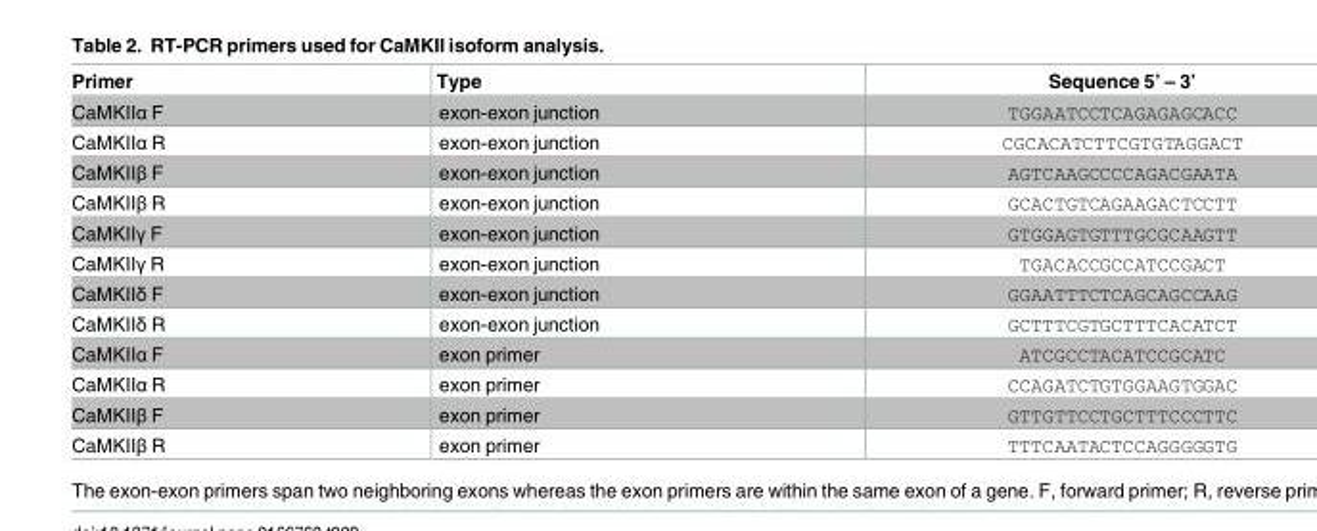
<table><thead><tr><td>Primer</td><td>Type</td><td>Sequence 5’ – 3’</td></tr></thead><tbody><tr><td>CaMKIIα F</td><td>exon-exon junction</td><td>TGGAATCCTCAGAGAGCACC</td></tr><tr><td>CaMKIIα R</td><td>exon-exon junction</td><td>CGCACATCTTCGTGTAGGACT</td></tr><tr><td>CaMKIIβ F</td><td>exon-exon junction</td><td>AGTCAAGCCCCAGACGAATA</td></tr><tr><td>CaMKIIβ R</td><td>exon-exon junction</td><td>GCACTGTCAGAAGACTCCTT</td></tr><tr><td>CaMKIIγ F</td><td>exon-exon junction</td><td>GTGGAGTGTTTGCGCAAGTT</td></tr><tr><td>CaMKIIγ R</td><td>exon-exon junction</td><td>TGACACCGCCATCCGACT</td></tr><tr><td>CaMKIIδ F</td><td>exon-exon junction</td><td>GGAATTTCTCAGCAGCCAAG</td></tr><tr><td>CaMKIIδ R</td><td>exon-exon junction</td><td>GCTTTCGTGCTTTCACATCT</td></tr><tr><td>CaMKIIα F</td><td>exon primer</td><td>ATCGCCTACATCCGCATC</td></tr><tr><td>CaMKIIα R</td><td>exon primer</td><td>CCAGATCTGTGGAAGTGGAC</td></tr><tr><td>CaMKIIβ F</td><td>exon primer</td><td>GTTGTTCCTGCTTTCCCTTC</td></tr><tr><td>CaMKIIβ R</td><td>exon primer</td><td>TTTCAATACTCCAGGGGGTG</td></tr></tbody></table>